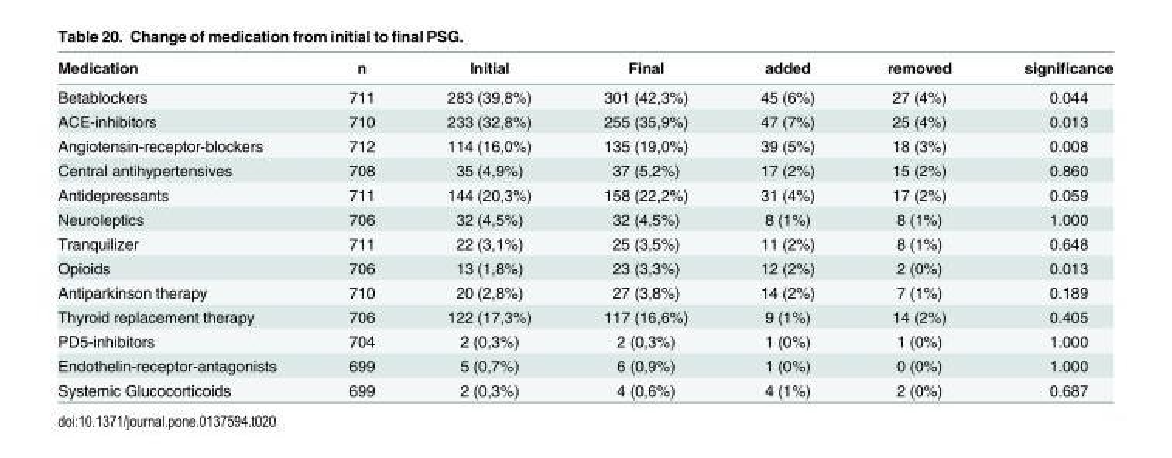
<table><thead><tr><td>Medication</td><td>n</td><td>Initial</td><td>Final</td><td>added</td><td>removed</td><td>significance</td></tr></thead><tbody><tr><td>Betablockers</td><td>711</td><td>283 (39,8%)</td><td>301 (42,3%)</td><td>45 (6%)</td><td>27 (4%)</td><td>0.044</td></tr><tr><td>ACE-inhibitors</td><td>710</td><td>233 (32,8%)</td><td>255 (35,9%)</td><td>47 (7%)</td><td>25 (4%)</td><td>0.013</td></tr><tr><td>Angiotensin-receptor-blockers</td><td>712</td><td>114 (16,0%)</td><td>135 (19,0%)</td><td>39 (5%)</td><td>18 (3%)</td><td>0.008</td></tr><tr><td>Central antihypertensives</td><td>708</td><td>35 (4,9%)</td><td>37 (5,2%)</td><td>17 (2%)</td><td>15 (2%)</td><td>0.860</td></tr><tr><td>Antidepressants</td><td>711</td><td>144 (20,3%)</td><td>158 (22,2%)</td><td>31 (4%)</td><td>17 (2%)</td><td>0.059</td></tr><tr><td>Neuroleptics</td><td>706</td><td>32 (4,5%)</td><td>32 (4,5%)</td><td>8 (1%)</td><td>8 (1%)</td><td>1.000</td></tr><tr><td>Tranquilizer</td><td>711</td><td>22 (3,1%)</td><td>25 (3,5%)</td><td>11 (2%)</td><td>8 (1%)</td><td>0.648</td></tr><tr><td>Opioids</td><td>706</td><td>13 (1,8%)</td><td>23 (3,3%)</td><td>12 (2%)</td><td>2 (0%)</td><td>0.013</td></tr><tr><td>Antiparkinson therapy</td><td>710</td><td>20 (2,8%)</td><td>27 (3,8%)</td><td>14 (2%)</td><td>7 (1%)</td><td>0.189</td></tr><tr><td>Thyroid replacement therapy</td><td>706</td><td>122 (17,3%)</td><td>117 (16,6%)</td><td>9 (1%)</td><td>14 (2%)</td><td>0.405</td></tr><tr><td>PD5-inhibitors</td><td>704</td><td>2 (0,3%)</td><td>2 (0,3%)</td><td>1 (0%)</td><td>1 (0%)</td><td>1.000</td></tr><tr><td>Endothelin-receptor-antagonists</td><td>699</td><td>5 (0,7%)</td><td>6 (0,9%)</td><td>1 (0%)</td><td>0 (0%)</td><td>1.000</td></tr><tr><td>Systemic Glucocorticoids</td><td>699</td><td>2 (0,3%)</td><td>4 (0,6%)</td><td>4 (1%)</td><td>2 (0%)</td><td>0.687</td></tr></tbody></table>